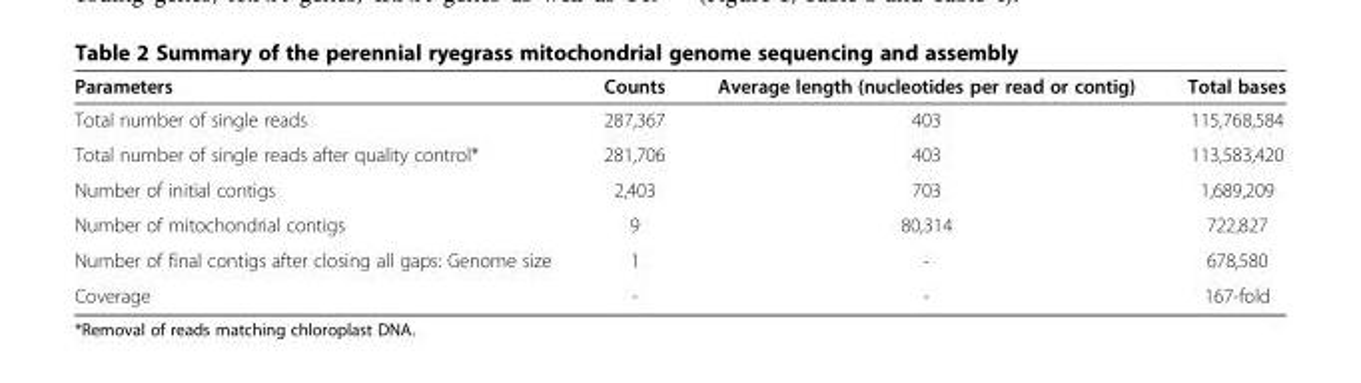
<table><thead><tr><td>Parameters</td><td>Counts</td><td>Average length (nucleotides per read or contig)</td><td>Total bases</td></tr></thead><tbody><tr><td>Total number of single reads</td><td>287,367</td><td>403</td><td>115,768,584</td></tr><tr><td>Total number of single reads after quality control*</td><td>281,706</td><td>403</td><td>113,583,420</td></tr><tr><td>Number of initial contigs</td><td>2,403</td><td>703</td><td>1,689,209</td></tr><tr><td>Number of mitochondrial contigs</td><td>9</td><td>80,314</td><td>722,827</td></tr><tr><td>Number of final contigs after closing all gaps: Genome size</td><td>1</td><td>-</td><td>678,580</td></tr><tr><td>Coverage</td><td>-</td><td>-</td><td>167-fold</td></tr></tbody></table>